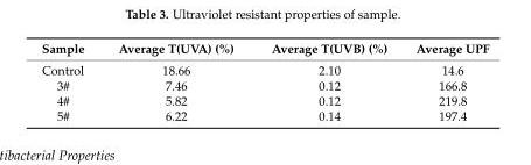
<table><thead><tr><td>Sample</td><td>Average T(UVA) (%)</td><td>Average T(UVB) (%)</td><td>Average UPF</td></tr></thead><tbody><tr><td>Control</td><td>18.66</td><td>2.10</td><td>14.6</td></tr><tr><td>3#</td><td>7.46</td><td>0.12</td><td>166.8</td></tr><tr><td>4#</td><td>5.82</td><td>0.12</td><td>219.8</td></tr><tr><td>5#</td><td>6.22</td><td>0.14</td><td>197.4</td></tr></tbody></table>